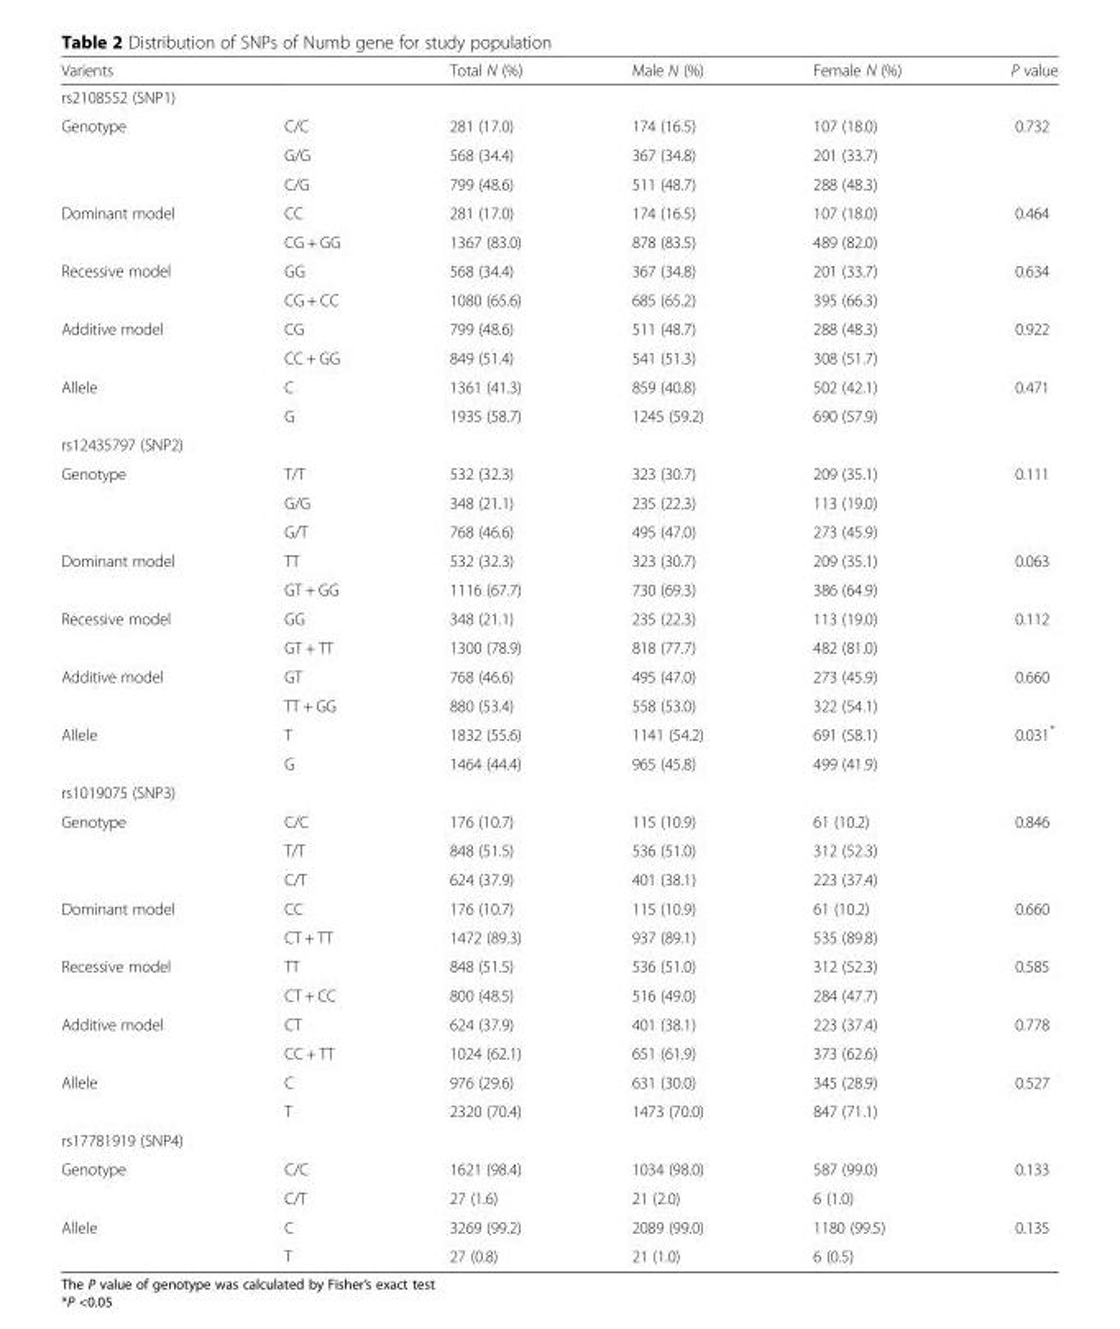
<table><thead><tr><td>Varients</td><td></td><td>Total N (%)</td><td>Male N (%)</td><td>Female N (%)</td><td>P value</td></tr></thead><tbody><tr><td colspan="6">rs2108552 (SNP1)</td></tr><tr><td rowspan="3">Genotype</td><td>C/C</td><td>281 (17.0)</td><td>174 (16.5)</td><td>107 (18.0)</td><td>0.732</td></tr><tr><td>G/G</td><td>568 (34.4)</td><td>367 (34.8)</td><td>201 (33.7)</td><td></td></tr><tr><td>C/G</td><td>799 (48.6)</td><td>511 (48.7)</td><td>288 (48.3)</td><td></td></tr><tr><td rowspan="2">Dominant model</td><td>CC</td><td>281 (17.0)</td><td>174 (16.5)</td><td>107 (18.0)</td><td>0.464</td></tr><tr><td>CG + GG</td><td>1367 (83.0)</td><td>878 (83.5)</td><td>489 (82.0)</td><td></td></tr><tr><td rowspan="2">Recessive model</td><td>GG</td><td>568 (34.4)</td><td>367 (34.8)</td><td>201 (33.7)</td><td>0.634</td></tr><tr><td>CG + CC</td><td>1080 (65.6)</td><td>685 (65.2)</td><td>395 (66.3)</td><td></td></tr><tr><td rowspan="2">Additive model</td><td>CG</td><td>799 (48.6)</td><td>511 (48.7)</td><td>288 (48.3)</td><td>0.922</td></tr><tr><td>CC + GG</td><td>849 (51.4)</td><td>541 (51.3)</td><td>308 (51.7)</td><td></td></tr><tr><td rowspan="2">Allele</td><td>C</td><td>1361 (41.3)</td><td>859 (40.8)</td><td>502 (42.1)</td><td>0.471</td></tr><tr><td>G</td><td>1935 (58.7)</td><td>1245 (59.2)</td><td>690 (57.9)</td><td></td></tr><tr><td colspan="6">rs12435797 (SNP2)</td></tr><tr><td rowspan="3">Genotype</td><td>T/T</td><td>532 (32.3)</td><td>323 (30.7)</td><td>209 (35.1)</td><td>0.111</td></tr><tr><td>G/G</td><td>348 (21.1)</td><td>235 (22.3)</td><td>113 (19.0)</td><td></td></tr><tr><td>G/T</td><td>768 (46.6)</td><td>495 (47.0)</td><td>273 (45.9)</td><td></td></tr><tr><td rowspan="2">Dominant model</td><td>TT</td><td>532 (32.3)</td><td>323 (30.7)</td><td>209 (35.1)</td><td>0.063</td></tr><tr><td>GT + GG</td><td>1116 (67.7)</td><td>730 (69.3)</td><td>386 (64.9)</td><td></td></tr><tr><td rowspan="2">Recessive model</td><td>GG</td><td>348 (21.1)</td><td>235 (22.3)</td><td>113 (19.0)</td><td>0.112</td></tr><tr><td>GT + TT</td><td>1300 (78.9)</td><td>818 (77.7)</td><td>482 (81.0)</td><td></td></tr><tr><td rowspan="2">Additive model</td><td>GT</td><td>768 (46.6)</td><td>495 (47.0)</td><td>273 (45.9)</td><td>0.660</td></tr><tr><td>TT + GG</td><td>880 (53.4)</td><td>558 (53.0)</td><td>322 (54.1)</td><td></td></tr><tr><td rowspan="2">Allele</td><td>T</td><td>1832 (55.6)</td><td>1141 (54.2)</td><td>691 (58.1)</td><td>0.031*</td></tr><tr><td>G</td><td>1464 (44.4)</td><td>965 (45.8)</td><td>499 (41.9)</td><td></td></tr><tr><td colspan="6">rs1019075 (SNP3)</td></tr><tr><td rowspan="3">Genotype</td><td>C/C</td><td>176 (10.7)</td><td>115 (10.9)</td><td>61 (10.2)</td><td>0.846</td></tr><tr><td>T/T</td><td>848 (51.5)</td><td>536 (51.0)</td><td>312 (52.3)</td><td></td></tr><tr><td>C/T</td><td>624 (37.9)</td><td>401 (38.1)</td><td>223 (37.4)</td><td></td></tr><tr><td rowspan="2">Dominant model</td><td>CC</td><td>176 (10.7)</td><td>115 (10.9)</td><td>61 (10.2)</td><td>0.660</td></tr><tr><td>CT + TT</td><td>1472 (89.3)</td><td>937 (89.1)</td><td>535 (89.8)</td><td></td></tr><tr><td rowspan="2">Recessive model</td><td>TT</td><td>848 (51.5)</td><td>536 (51.0)</td><td>312 (52.3)</td><td>0.585</td></tr><tr><td>CT + CC</td><td>800 (48.5)</td><td>516 (49.0)</td><td>284 (47.7)</td><td></td></tr><tr><td rowspan="2">Additive model</td><td>CT</td><td>624 (37.9)</td><td>401 (38.1)</td><td>223 (37.4)</td><td>0.778</td></tr><tr><td>CC + TT</td><td>1024 (62.1)</td><td>651 (61.9)</td><td>373 (62.6)</td><td></td></tr><tr><td rowspan="2">Allele</td><td>C</td><td>976 (29.6)</td><td>631 (30.0)</td><td>345 (28.9)</td><td>0.527</td></tr><tr><td>T</td><td>2320 (70.4)</td><td>1473 (70.0)</td><td>847 (71.1)</td><td></td></tr><tr><td colspan="6">rs17781919 (SNP4)</td></tr><tr><td rowspan="2">Genotype</td><td>C/C</td><td>1621 (98.4)</td><td>1034 (98.0)</td><td>587 (99.0)</td><td>0.133</td></tr><tr><td>C/T</td><td>27 (1.6)</td><td>21 (2.0)</td><td>6 (1.0)</td><td></td></tr><tr><td rowspan="2">Allele</td><td>C</td><td>3269 (99.2)</td><td>2089 (99.0)</td><td>1180 (99.5)</td><td>0.135</td></tr><tr><td>T</td><td>27 (0.8)</td><td>21 (1.0)</td><td>6 (0.5)</td><td></td></tr></tbody></table>